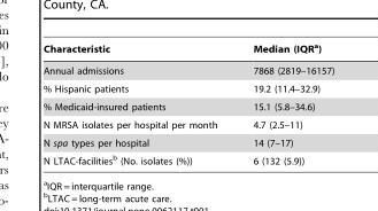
<table><thead><tr><td>Characteristic</td><td>Median (IQR<sup>a</sup>)</td></tr></thead><tbody><tr><td>Annual admissions</td><td>7868 (2819–16157)</td></tr><tr><td>% Hispanic patients</td><td>19.2 (11.4–32.9)</td></tr><tr><td>% Medicaid-insured patients</td><td>15.1 (5.8–34.6)</td></tr><tr><td>N MRSA isolates per hospital per month</td><td>4.7 (2.5–11)</td></tr><tr><td>N spa types per hospital</td><td>14 (7–17)</td></tr><tr><td>N LTAC-facilities<sup>b</sup> (No. isolates (%))</td><td>6 (132 (5.9))</td></tr></tbody></table>